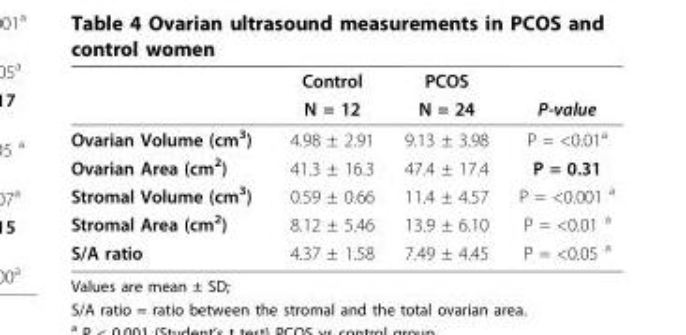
<table><thead><tr><td rowspan="2"></td><td rowspan="2">Control N = 12</td><td rowspan="2">PCOS N = 24</td><td rowspan="2">P-value</td></tr><tr></tr></thead><tbody><tr><td>Ovarian Volume (cm<sup>3</sup>)</td><td>4.98 ± 2.91</td><td>9.13 ± 3.98</td><td>P = &lt;0.01<sup>a</sup></td></tr><tr><td>Ovarian Area (cm<sup>2</sup>)</td><td>41.3 ± 16.3</td><td>47.4 ± 17.4</td><td>P = 0.31</td></tr><tr><td>Stromal Volume (cm<sup>3</sup>)</td><td>0.59 ± 0.66</td><td>11.4 ± 4.57</td><td>P = &lt;0.001 <sup>a</sup></td></tr><tr><td>Stromal Area (cm<sup>2</sup>)</td><td>8.12 ± 5.46</td><td>13.9 ± 6.10</td><td>P = &lt;0.01 <sup>a</sup></td></tr><tr><td>S/A ratio</td><td>4.37 ± 1.58</td><td>7.49 ± 4.45</td><td>P = &lt;0.05 <sup>a</sup></td></tr></tbody></table>